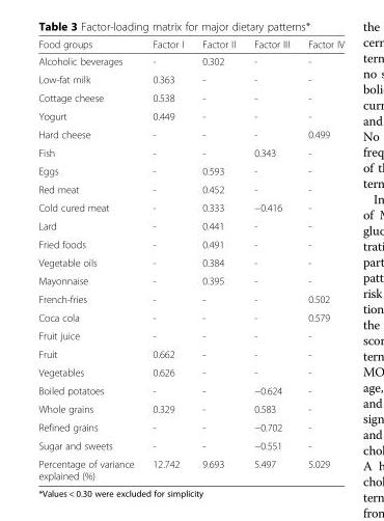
<table><thead><tr><td>Food groups</td><td>Factor I</td><td>Factor II</td><td>Factor III</td><td>Factor IV</td></tr></thead><tbody><tr><td>Alcoholic beverages</td><td>-</td><td>0.302</td><td>-</td><td>-</td></tr><tr><td>Low-fat milk</td><td>0.363</td><td>-</td><td>-</td><td>-</td></tr><tr><td>Cottage cheese</td><td>0.538</td><td>-</td><td>-</td><td>-</td></tr><tr><td>Yogurt</td><td>0.449</td><td>-</td><td>-</td><td>-</td></tr><tr><td>Hard cheese</td><td>-</td><td>-</td><td>-</td><td>0.499</td></tr><tr><td>Fish</td><td>-</td><td>-</td><td>0.343</td><td>-</td></tr><tr><td>Eggs</td><td>-</td><td>0.593</td><td>-</td><td>-</td></tr><tr><td>Red meat</td><td>-</td><td>0.452</td><td>-</td><td>-</td></tr><tr><td>Cold cured meat</td><td>-</td><td>0.333</td><td>−0.416</td><td>-</td></tr><tr><td>Lard</td><td>-</td><td>0.441</td><td>-</td><td>-</td></tr><tr><td>Fried foods</td><td>-</td><td>0.491</td><td>-</td><td>-</td></tr><tr><td>Vegetable oils</td><td>-</td><td>0.384</td><td>-</td><td>-</td></tr><tr><td>Mayonnaise</td><td>-</td><td>0.395</td><td>-</td><td>-</td></tr><tr><td>French-fries</td><td>-</td><td>-</td><td>-</td><td>0.502</td></tr><tr><td>Coca cola</td><td>-</td><td>-</td><td>-</td><td>0.579</td></tr><tr><td>Fruit juice</td><td>-</td><td>-</td><td>-</td><td>-</td></tr><tr><td>Fruit</td><td>0.662</td><td>-</td><td>-</td><td>-</td></tr><tr><td>Vegetables</td><td>0.626</td><td>-</td><td>-</td><td>-</td></tr><tr><td>Boiled potatoes</td><td>-</td><td>-</td><td>−0.624</td><td>-</td></tr><tr><td>Whole grains</td><td>0.329</td><td>-</td><td>0.583</td><td>-</td></tr><tr><td>Refined grains</td><td>-</td><td>-</td><td>−0.702</td><td>-</td></tr><tr><td>Sugar and sweets</td><td>-</td><td>-</td><td>−0.551</td><td>-</td></tr><tr><td>Percentage of variance explained (%)</td><td>12.742</td><td>9.693</td><td>5.497</td><td>5.029</td></tr></tbody></table>